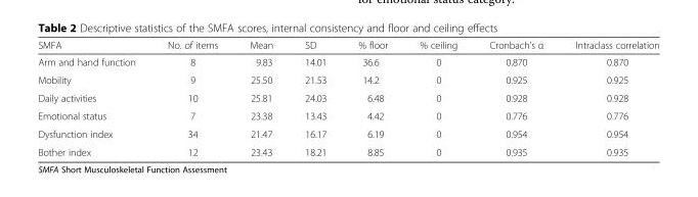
<table><thead><tr><td>SMFA</td><td>No. of items</td><td>Mean</td><td>SD</td><td>% floor</td><td>% ceiling</td><td>Cronbach’s α</td><td>Intraclass correlation</td></tr></thead><tbody><tr><td>Arm and hand function</td><td>8</td><td>9.83</td><td>14.01</td><td>36.6</td><td>0</td><td>0.870</td><td>0.870</td></tr><tr><td>Mobility</td><td>9</td><td>25.50</td><td>21.53</td><td>14.2</td><td>0</td><td>0.925</td><td>0.925</td></tr><tr><td>Daily activities</td><td>10</td><td>25.81</td><td>24.03</td><td>6.48</td><td>0</td><td>0.928</td><td>0.928</td></tr><tr><td>Emotional status</td><td>7</td><td>23.38</td><td>13.43</td><td>4.42</td><td>0</td><td>0.776</td><td>0.776</td></tr><tr><td>Dysfunction index</td><td>34</td><td>21.47</td><td>16.17</td><td>6.19</td><td>0</td><td>0.954</td><td>0.954</td></tr><tr><td>Bother index</td><td>12</td><td>23.43</td><td>18.21</td><td>8.85</td><td>0</td><td>0.935</td><td>0.935</td></tr></tbody></table>